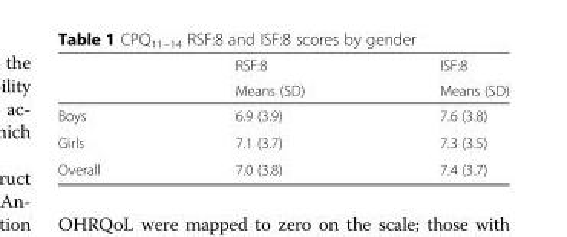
<table><thead><tr><td rowspan="2"></td><td rowspan="2">RSF:8 Means (SD)</td><td rowspan="2">ISF:8 Means (SD)</td></tr><tr></tr></thead><tbody><tr><td>Boys</td><td>6.9 (3.9)</td><td>7.6 (3.8)</td></tr><tr><td>Girls</td><td>7.1 (3.7)</td><td>7.3 (3.5)</td></tr><tr><td>Overall</td><td>7.0 (3.8)</td><td>7.4 (3.7)</td></tr></tbody></table>